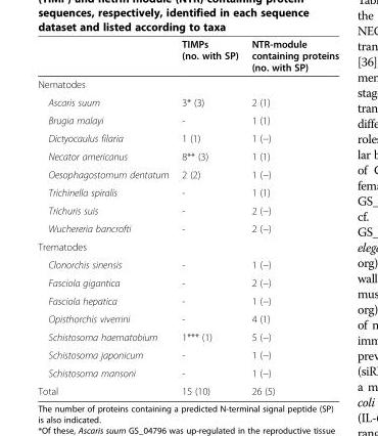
<table><thead><tr><td></td><td>TIMPs (no. with SP)</td><td>NTR-module containing proteins (no. with SP)</td></tr></thead><tbody><tr><td colspan="3">Nematodes</td></tr><tr><td>Ascaris suum</td><td>3* (3)</td><td>2 (1)</td></tr><tr><td>Brugia malayi</td><td>-</td><td>1 (1)</td></tr><tr><td>Dictyocaulus filaria</td><td>1 (1)</td><td>1 (−)</td></tr><tr><td>Necator americanus</td><td>8** (3)</td><td>1 (1)</td></tr><tr><td>Oesophagostomum dentatum</td><td>2 (2)</td><td>1 (−)</td></tr><tr><td>Trichinella spiralis</td><td>-</td><td>1 (1)</td></tr><tr><td>Trichuris suis</td><td>-</td><td>2 (−)</td></tr><tr><td>Wuchereria bancrofti</td><td>-</td><td>2 (−)</td></tr><tr><td colspan="3">Trematodes</td></tr><tr><td>Clonorchis sinensis</td><td>-</td><td>1 (−)</td></tr><tr><td>Fasciola gigantica</td><td>-</td><td>2 (−)</td></tr><tr><td>Fasciola hepatica</td><td>-</td><td>1 (−)</td></tr><tr><td>Opisthorchis viverrini</td><td>-</td><td>4 (1)</td></tr><tr><td>Schistosoma haematobium</td><td>1*** (1)</td><td>5 (−)</td></tr><tr><td>Schistosoma japonicum</td><td>-</td><td>1 (−)</td></tr><tr><td>Schistosoma mansoni</td><td>-</td><td>1 (−)</td></tr><tr><td>Total</td><td>15 (10)</td><td>26 (5)</td></tr></tbody></table>